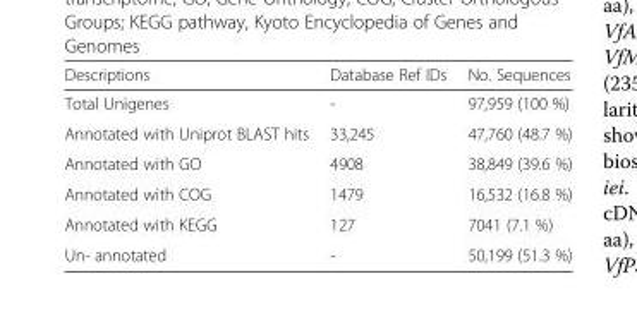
<table><thead><tr><td>Descriptions</td><td>Database Ref IDs</td><td>No. Sequences</td></tr></thead><tbody><tr><td>Total Unigenes</td><td>-</td><td>97,959 (100 %)</td></tr><tr><td>Annotated with Uniprot BLAST hits</td><td>33,245</td><td>47,760 (48.7 %)</td></tr><tr><td>Annotated with GO</td><td>4908</td><td>38,849 (39.6 %)</td></tr><tr><td>Annotated with COG</td><td>1479</td><td>16,532 (16.8 %)</td></tr><tr><td>Annotated with KEGG</td><td>127</td><td>7041 (7.1 %)</td></tr><tr><td>Un- annotated</td><td>-</td><td>50,199 (51.3 %)</td></tr></tbody></table>